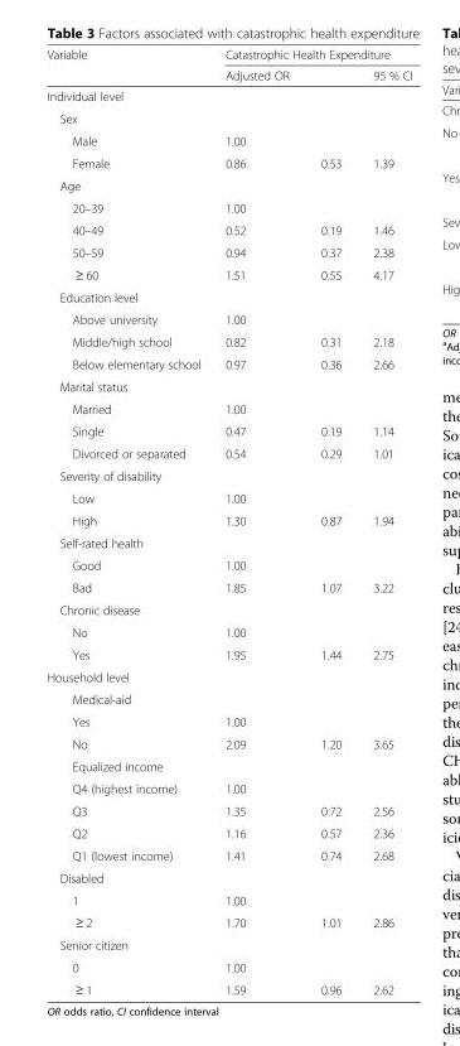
<table><thead><tr><td rowspan="2">Variable</td><td colspan="3">Catastrophic Health Expenditure</td></tr><tr><td>Adjusted OR</td><td></td><td>95 % CI</td></tr></thead><tbody><tr><td colspan="4">Individual level</td></tr><tr><td colspan="4">Sex</td></tr><tr><td>Male</td><td>1.00</td><td></td><td></td></tr><tr><td>Female</td><td>0.86</td><td>0.53</td><td>1.39</td></tr><tr><td colspan="4">Age</td></tr><tr><td>20–39</td><td>1.00</td><td></td><td></td></tr><tr><td>40–49</td><td>0.52</td><td>0.19</td><td>1.46</td></tr><tr><td>50–59</td><td>0.94</td><td>0.37</td><td>2.38</td></tr><tr><td>≥ 60</td><td>1.51</td><td>0.55</td><td>4.17</td></tr><tr><td colspan="4">Education level</td></tr><tr><td>Above university</td><td>1.00</td><td></td><td></td></tr><tr><td>Middle/high school</td><td>0.82</td><td>0.31</td><td>2.18</td></tr><tr><td>Below elementary school</td><td>0.97</td><td>0.36</td><td>2.66</td></tr><tr><td colspan="4">Marital status</td></tr><tr><td>Married</td><td>1.00</td><td></td><td></td></tr><tr><td>Single</td><td>0.47</td><td>0.19</td><td>1.14</td></tr><tr><td>Divorced or separated</td><td>0.54</td><td>0.29</td><td>1.01</td></tr><tr><td colspan="4">Severity of disability</td></tr><tr><td>Low</td><td>1.00</td><td></td><td></td></tr><tr><td>High</td><td>1.30</td><td>0.87</td><td>1.94</td></tr><tr><td colspan="4">Self-rated health</td></tr><tr><td>Good</td><td>1.00</td><td></td><td></td></tr><tr><td>Bad</td><td>1.85</td><td>1.07</td><td>3.22</td></tr><tr><td colspan="4">Chronic disease</td></tr><tr><td>No</td><td>1.00</td><td></td><td></td></tr><tr><td>Yes</td><td>1.95</td><td>1.44</td><td>2.75</td></tr><tr><td colspan="4">Household level</td></tr><tr><td colspan="4">Medical-aid</td></tr><tr><td>Yes</td><td>1.00</td><td></td><td></td></tr><tr><td>No</td><td>2.09</td><td>1.20</td><td>3.65</td></tr><tr><td colspan="4">Equalized income</td></tr><tr><td>Q4 (highest income)</td><td>1.00</td><td></td><td></td></tr><tr><td>Q3</td><td>1.35</td><td>0.72</td><td>2.56</td></tr><tr><td>Q2</td><td>1.16</td><td>0.57</td><td>2.36</td></tr><tr><td>Q1 (lowest income)</td><td>1.41</td><td>0.74</td><td>2.68</td></tr><tr><td colspan="4">Disabled</td></tr><tr><td>1</td><td>1.00</td><td></td><td></td></tr><tr><td>≥ 2</td><td>1.70</td><td>1.01</td><td>2.86</td></tr><tr><td colspan="4">Senior citizen</td></tr><tr><td>0</td><td>1.00</td><td></td><td></td></tr><tr><td>≥ 1</td><td>1.59</td><td>0.96</td><td>2.62</td></tr></tbody></table>